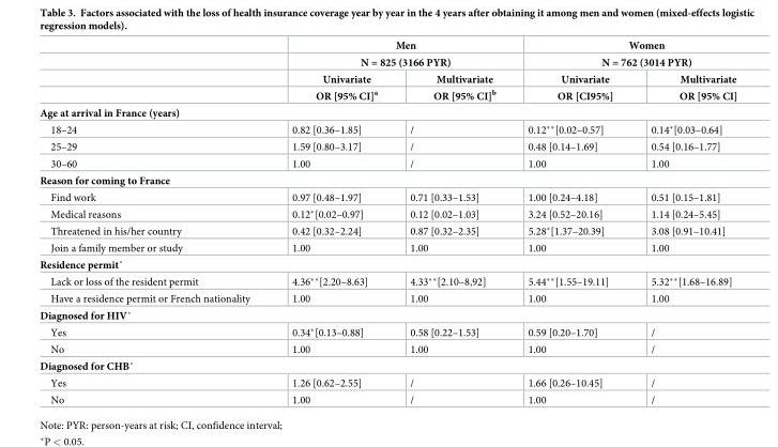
<table><thead><tr><td rowspan="4"></td><td rowspan="2" colspan="2">Men N = 825 (3166 PYR)</td><td rowspan="2" colspan="2">Women N = 762 (3014 PYR)</td></tr><tr></tr><tr><td rowspan="2">Univariate OR [95% CI]<sup>a</sup></td><td rowspan="2">Multivariate OR [95% CI]<sup>b</sup></td><td rowspan="2">Univariate OR [CI95%]</td><td rowspan="2">Multivariate OR [95% CI]</td></tr><tr></tr></thead><tbody><tr><td colspan="5">Age at arrival in France (years)</td></tr><tr><td>18–24</td><td>0.82 [0.36–1.85]</td><td>/</td><td>0.12**[0.02–0.57]</td><td>0.14*[0.03–0.64]</td></tr><tr><td>25–29</td><td>1.59 [0.80–3.17]</td><td>/</td><td>0.48 [0.14–1.69]</td><td>0.54 [0.16–1.77]</td></tr><tr><td>30–60</td><td>1.00</td><td>/</td><td>1.00</td><td>1.00</td></tr><tr><td colspan="5">Reason for coming to France</td></tr><tr><td>Find work</td><td>0.97 [0.48–1.97]</td><td>0.71 [0.33–1.53]</td><td>1.00 [0.24–4.18]</td><td>0.51 [0.15–1.81]</td></tr><tr><td>Medical reasons</td><td>0.12*[0.02–0.97]</td><td>0.12 [0.02–1.03]</td><td>3.24 [0.52–20.16]</td><td>1.14 [0.24–5.45]</td></tr><tr><td>Threatened in his/her country</td><td>0.42 [0.32–2.24]</td><td>0.87 [0.32–2.35]</td><td>5.28*[1.37–20.39]</td><td>3.08 [0.91–10.41]</td></tr><tr><td>Join a family member or study</td><td>1.00</td><td>1.00</td><td>1.00</td><td>1.00</td></tr><tr><td colspan="5">Residence permit˚</td></tr><tr><td>Lack or loss of the resident permit</td><td>4.36**[2.20–8.63]</td><td>4.33**[2.10–8,92]</td><td>5.44**[1.55–19.11]</td><td>5.32**[1.68–16.89]</td></tr><tr><td>Have a residence permit or French nationality</td><td>1.00</td><td>1.00</td><td>1.00</td><td>1.00</td></tr><tr><td colspan="5">Diagnosed for HIV˚</td></tr><tr><td>Yes</td><td>0.34*[0.13–0.88]</td><td>0.58 [0.22–1.53]</td><td>0.59 [0.20–1.70]</td><td>/</td></tr><tr><td>No</td><td>1.00</td><td>1.00</td><td>1.00</td><td>/</td></tr><tr><td colspan="5">Diagnosed for CHB˚</td></tr><tr><td>Yes</td><td>1.26 [0.62–2.55]</td><td>/</td><td>1.66 [0.26–10.45]</td><td>/</td></tr><tr><td>No</td><td>1.00</td><td>/</td><td>1.00</td><td>/</td></tr></tbody></table>